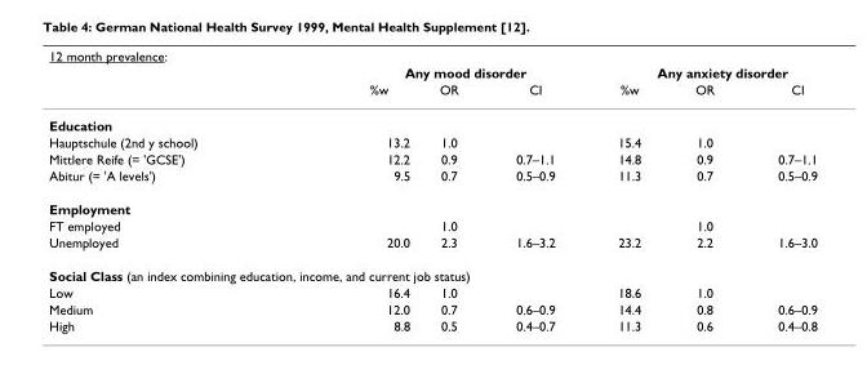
<table><thead><tr><td rowspan="3">12 month prevalence:</td><td></td><td></td><td></td><td></td><td></td><td></td></tr><tr><td colspan="3">Any mood disorder</td><td colspan="3">Any anxiety disorder</td></tr><tr><td>%w</td><td>OR</td><td>CI</td><td>%w</td><td>OR</td><td>CI</td></tr></thead><tbody><tr><td colspan="7">Education</td></tr><tr><td>Hauptschule (2nd y school)</td><td>13.2</td><td>1.0</td><td></td><td>15.4</td><td>1.0</td><td></td></tr><tr><td>Mittlere Reife (= &#x27;GCSE&#x27;)</td><td>12.2</td><td>0.9</td><td>0.7–1.1</td><td>14.8</td><td>0.9</td><td>0.7–1.1</td></tr><tr><td>Abitur (= &#x27;A levels&#x27;)</td><td>9.5</td><td>0.7</td><td>0.5–0.9</td><td>11.3</td><td>0.7</td><td>0.5–0.9</td></tr><tr><td colspan="7">Employment</td></tr><tr><td>FT employed</td><td></td><td>1.0</td><td></td><td></td><td>1.0</td><td></td></tr><tr><td>Unemployed</td><td>20.0</td><td>2.3</td><td>1.6–3.2</td><td>23.2</td><td>2.2</td><td>1.6–3.0</td></tr><tr><td colspan="7">Social Class (an index combining education, income, and current job status)</td></tr><tr><td>Low</td><td>16.4</td><td>1.0</td><td></td><td>18.6</td><td>1.0</td><td></td></tr><tr><td>Medium</td><td>12.0</td><td>0.7</td><td>0.6–0.9</td><td>14.4</td><td>0.8</td><td>0.6–0.9</td></tr><tr><td>High</td><td>8.8</td><td>0.5</td><td>0.4–0.7</td><td>11.3</td><td>0.6</td><td>0.4–0.8</td></tr></tbody></table>